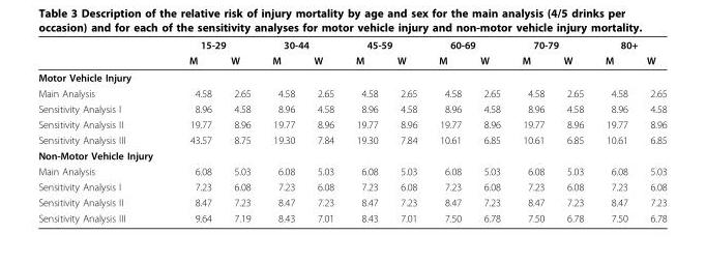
<table><thead><tr><td rowspan="2"></td><td colspan="2">15-29</td><td colspan="2">30-44</td><td colspan="2">45-59</td><td colspan="2">60-69</td><td colspan="2">70-79</td><td colspan="2">80+</td></tr><tr><td>M</td><td>W</td><td>M</td><td>W</td><td>M</td><td>W</td><td>M</td><td>W</td><td>M</td><td>W</td><td>M</td><td>W</td></tr></thead><tbody><tr><td colspan="13">Motor Vehicle Injury</td></tr><tr><td>Main Analysis</td><td>4.58</td><td>2.65</td><td>4.58</td><td>2.65</td><td>4.58</td><td>2.65</td><td>4.58</td><td>2.65</td><td>4.58</td><td>2.65</td><td>4.58</td><td>2.65</td></tr><tr><td>Sensitivity Analysis I</td><td>8.96</td><td>4.58</td><td>8.96</td><td>4.58</td><td>8.96</td><td>4.58</td><td>8.96</td><td>4.58</td><td>8.96</td><td>4.58</td><td>8.96</td><td>4.58</td></tr><tr><td>Sensitivity Analysis II</td><td>19.77</td><td>8.96</td><td>19.77</td><td>8.96</td><td>19.77</td><td>8.96</td><td>19.77</td><td>8.96</td><td>19.77</td><td>8.96</td><td>19.77</td><td>8.96</td></tr><tr><td>Sensitivity Analysis III</td><td>43.57</td><td>8.75</td><td>19.30</td><td>7.84</td><td>19.30</td><td>7.84</td><td>10.61</td><td>6.85</td><td>10.61</td><td>6.85</td><td>10.61</td><td>6.85</td></tr><tr><td colspan="13">Non-Motor Vehicle Injury</td></tr><tr><td>Main Analysis</td><td>6.08</td><td>5.03</td><td>6.08</td><td>5.03</td><td>6.08</td><td>5.03</td><td>6.08</td><td>5.03</td><td>6.08</td><td>5.03</td><td>6.08</td><td>5.03</td></tr><tr><td>Sensitivity Analysis I</td><td>7.23</td><td>6.08</td><td>7.23</td><td>6.08</td><td>7.23</td><td>6.08</td><td>7.23</td><td>6.08</td><td>7.23</td><td>6.08</td><td>7.23</td><td>6.08</td></tr><tr><td>Sensitivity Analysis II</td><td>8.47</td><td>7.23</td><td>8.47</td><td>7.23</td><td>8.47</td><td>7.23</td><td>8.47</td><td>7.23</td><td>8.47</td><td>7.23</td><td>8.47</td><td>7.23</td></tr><tr><td>Sensitivity Analysis III</td><td>9.64</td><td>7.19</td><td>8.43</td><td>7.01</td><td>8.43</td><td>7.01</td><td>7.50</td><td>6.78</td><td>7.50</td><td>6.78</td><td>7.50</td><td>6.78</td></tr></tbody></table>